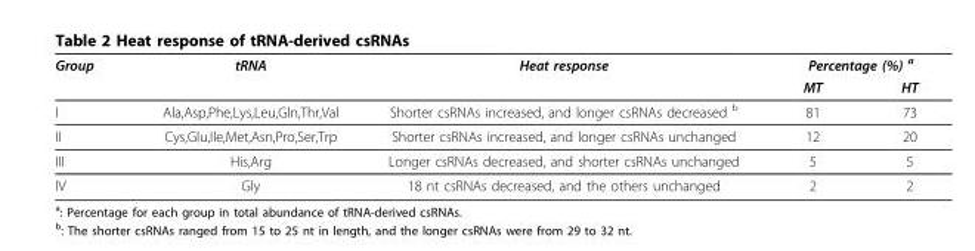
<table><thead><tr><td rowspan="2">Group</td><td rowspan="2">tRNA</td><td rowspan="2">Heat response</td><td colspan="2">Percentage (%) <sup>a</sup></td></tr><tr><td>MT</td><td>HT</td></tr></thead><tbody><tr><td>I</td><td>Ala,Asp,Phe,Lys,Leu,Gln,Thr,Val</td><td>Shorter csRNAs increased, and longer csRNAs decreased <sup>b</sup></td><td>81</td><td>73</td></tr><tr><td>II</td><td>Cys,Glu,Ile,Met,Asn,Pro,Ser,Trp</td><td>Shorter csRNAs increased, and longer csRNAs unchanged</td><td>12</td><td>20</td></tr><tr><td>III</td><td>His,Arg</td><td>Longer csRNAs decreased, and shorter csRNAs unchanged</td><td>5</td><td>5</td></tr><tr><td>IV</td><td>Gly</td><td>18 nt csRNAs decreased, and the others unchanged</td><td>2</td><td>2</td></tr></tbody></table>